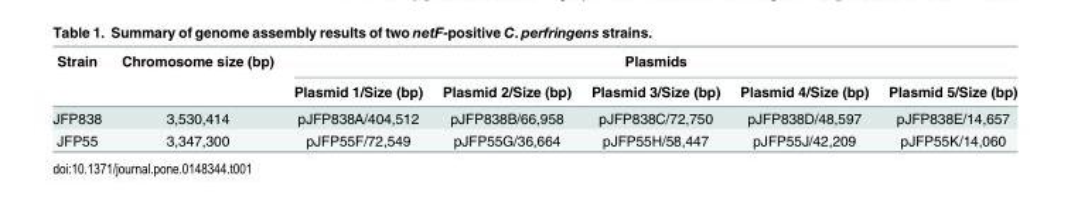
<table><thead><tr><td rowspan="2">Strain</td><td rowspan="2">Chromosome size (bp)</td><td colspan="5">Plasmids</td></tr><tr><td>Plasmid 1/Size (bp)</td><td>Plasmid 2/Size (bp)</td><td>Plasmid 3/Size (bp)</td><td>Plasmid 4/Size (bp)</td><td>Plasmid 5/Size (bp)</td></tr></thead><tbody><tr><td>JFP838</td><td>3,530,414</td><td>pJFP838A/404,512</td><td>pJFP838B/66,958</td><td>pJFP838C/72,750</td><td>pJFP838D/48,597</td><td>pJFP838E/14,657</td></tr><tr><td>JFP55</td><td>3,347,300</td><td>pJFP55F/72,549</td><td>pJFP55G/36,664</td><td>pJFP55H/58,447</td><td>pJFP55J/42,209</td><td>pJFP55K/14,060</td></tr></tbody></table>